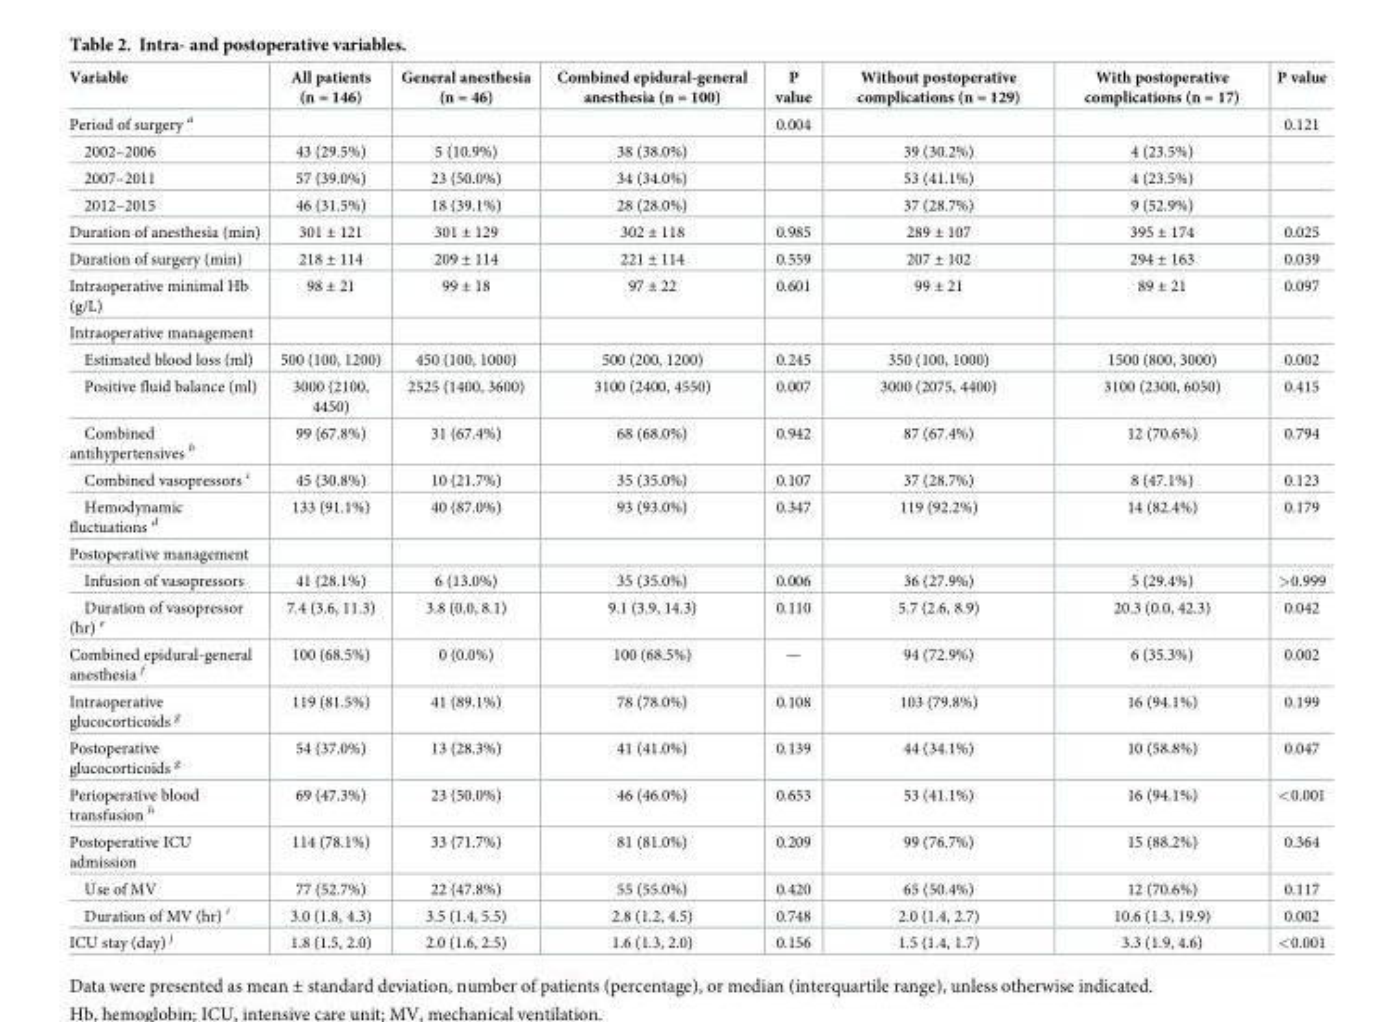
<table><thead><tr><td>Variable</td><td>All patients (n = 146)</td><td>General anesthesia (n = 46)</td><td>Combined epidural-general anesthesia (n = 100)</td><td>P value</td><td>Without postoperative complications (n = 129)</td><td>With postoperative complications (n = 17)</td><td>P value</td></tr></thead><tbody><tr><td>Period of surgery <sup>a</sup></td><td></td><td></td><td></td><td>0.004</td><td></td><td></td><td>0.121</td></tr><tr><td>2002–2006</td><td>43 (29.5%)</td><td>5 (10.9%)</td><td>38 (38.0%)</td><td></td><td>39 (30.2%)</td><td>4 (23.5%)</td><td></td></tr><tr><td>2007–2011</td><td>57 (39.0%)</td><td>23 (50.0%)</td><td>34 (34.0%)</td><td></td><td>53 (41.1%)</td><td>4 (23.5%)</td><td></td></tr><tr><td>2012–2015</td><td>46 (31.5%)</td><td>18 (39.1%)</td><td>28 (28.0%)</td><td></td><td>37 (28.7%)</td><td>9 (52.9%)</td><td></td></tr><tr><td>Duration of anesthesia (min)</td><td>301 ± 121</td><td>301 ± 129</td><td>302 ± 118</td><td>0.985</td><td>289 ± 107</td><td>395 ± 174</td><td>0.025</td></tr><tr><td>Duration of surgery (min)</td><td>218 ± 114</td><td>209 ± 114</td><td>221 ± 114</td><td>0.559</td><td>207 ± 102</td><td>294 ± 163</td><td>0.039</td></tr><tr><td>Intraoperative minimal Hb (g/L)</td><td>98 ± 21</td><td>99 ± 18</td><td>97 ± 22</td><td>0.601</td><td>99 ± 21</td><td>89 ± 21</td><td>0.097</td></tr><tr><td colspan="8">Intraoperative management</td></tr><tr><td>Estimated blood loss (ml)</td><td>500 (100, 1200)</td><td>450 (100, 1000)</td><td>500 (200, 1200)</td><td>0.245</td><td>350 (100, 1000)</td><td>1500 (800, 3000)</td><td>0.002</td></tr><tr><td>Positive fluid balance (ml)</td><td>3000 (2100, 4450)</td><td>2525 (1400, 3600)</td><td>3100 (2400, 4550)</td><td>0.007</td><td>3000 (2075, 4400)</td><td>3100 (2300, 6050)</td><td>0.415</td></tr><tr><td>Combined antihypertensives <sup>b</sup></td><td>99 (67.8%)</td><td>31 (67.4%)</td><td>68 (68.0%)</td><td>0.942</td><td>87 (67.4%)</td><td>12 (70.6%)</td><td>0.794</td></tr><tr><td>Combined vasopressors <sup>c</sup></td><td>45 (30.8%)</td><td>10 (21.7%)</td><td>35 (35.0%)</td><td>0.107</td><td>37 (28.7%)</td><td>8 (47.1%)</td><td>0.123</td></tr><tr><td>Hemodynamic fluctuations <sup>d</sup></td><td>133 (91.1%)</td><td>40 (87.0%)</td><td>93 (93.0%)</td><td>0.347</td><td>119 (92.2%)</td><td>14 (82.4%)</td><td>0.179</td></tr><tr><td colspan="8">Postoperative management</td></tr><tr><td>Infusion of vasopressors</td><td>41 (28.1%)</td><td>6 (13.0%)</td><td>35 (35.0%)</td><td>0.006</td><td>36 (27.9%)</td><td>5 (29.4%)</td><td>&gt;0.999</td></tr><tr><td>Duration of vasopressor (hr) <sup>e</sup></td><td>7.4 (3.6, 11.3)</td><td>3.8 (0.0, 8.1)</td><td>9.1 (3.9, 14.3)</td><td>0.110</td><td>5.7 (2.6, 8.9)</td><td>20.3 (0.0, 42.3)</td><td>0.042</td></tr><tr><td>Combined epidural-general anesthesia <sup>f</sup></td><td>100 (68.5%)</td><td>0 (0.0%)</td><td>100 (68.5%)</td><td>—</td><td>94 (72.9%)</td><td>6 (35.3%)</td><td>0.002</td></tr><tr><td>Intraoperative glucocorticoids <sup>g</sup></td><td>119 (81.5%)</td><td>41 (89.1%)</td><td>78 (78.0%)</td><td>0.108</td><td>103 (79.8%)</td><td>16 (94.1%)</td><td>0.199</td></tr><tr><td>Postoperative glucocorticoids <sup>g</sup></td><td>54 (37.0%)</td><td>13 (28.3%)</td><td>41 (41.0%)</td><td>0.139</td><td>44 (34.1%)</td><td>10 (58.8%)</td><td>0.047</td></tr><tr><td>Perioperative blood transfusion <sup>h</sup></td><td>69 (47.3%)</td><td>23 (50.0%)</td><td>46 (46.0%)</td><td>0.653</td><td>53 (41.1%)</td><td>16 (94.1%)</td><td>&lt;0.001</td></tr><tr><td>Postoperative ICU admission</td><td>114 (78.1%)</td><td>33 (71.7%)</td><td>81 (81.0%)</td><td>0.209</td><td>99 (76.7%)</td><td>15 (88.2%)</td><td>0.364</td></tr><tr><td>Use of MV</td><td>77 (52.7%)</td><td>22 (47.8%)</td><td>55 (55.0%)</td><td>0.420</td><td>65 (50.4%)</td><td>12 (70.6%)</td><td>0.117</td></tr><tr><td>Duration of MV (hr) <sup>i</sup></td><td>3.0 (1.8, 4.3)</td><td>3.5 (1.4, 5.5)</td><td>2.8 (1.2, 4.5)</td><td>0.748</td><td>2.0 (1.4, 2.7)</td><td>10.6 (1.3, 19.9)</td><td>0.002</td></tr><tr><td>ICU stay (day) <sup>j</sup></td><td>1.8 (1.5, 2.0)</td><td>2.0 (1.6, 2.5)</td><td>1.6 (1.3, 2.0)</td><td>0.156</td><td>1.5 (1.4, 1.7)</td><td>3.3 (1.9, 4.6)</td><td>&lt;0.001</td></tr></tbody></table>